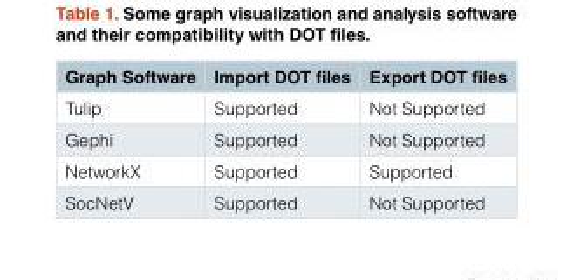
<table><thead><tr><td>Graph Software</td><td>Import DOT files</td><td>Export DOT files</td></tr></thead><tbody><tr><td>Tulip</td><td>Supported</td><td>Not Supported</td></tr><tr><td>Gephi</td><td>Supported</td><td>Not Supported</td></tr><tr><td>NetworkX</td><td>Supported</td><td>Supported</td></tr><tr><td>SocNetV</td><td>Supported</td><td>Not Supported</td></tr></tbody></table>